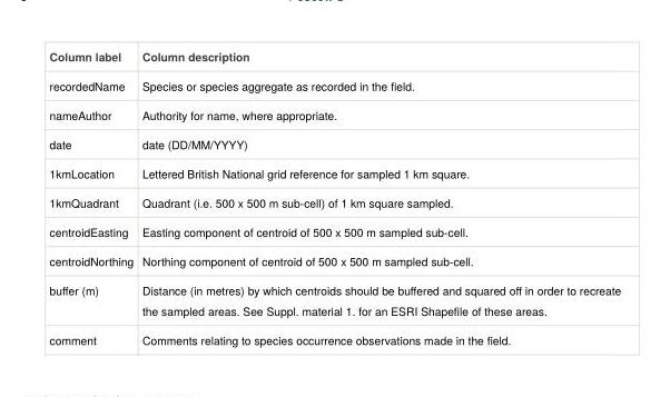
<table><thead><tr><td>Column label</td><td>Column description</td></tr></thead><tbody><tr><td>recordedName</td><td>Speci e s or species aggregate as recorded in the field.</td></tr><tr><td>nameAuthor</td><td>Authority for name, where appropriate.</td></tr><tr><td>date</td><td>date (DD/MM/YYYY)</td></tr><tr><td>1kmLocation</td><td>Lettered British National grid reference for sampled 1 km square.</td></tr><tr><td>1kmQuadrant</td><td>Quadrant (i.e. 500 x 500 m sub-cell) of 1 km square sampled.</td></tr><tr><td>centroidEasting</td><td>Easting component of centroid of 500 x 500 m sampled sub-cell.</td></tr><tr><td>centroidNorthing</td><td>Northing component of centroid of 500 x 500 m sampled sub-cell.</td></tr><tr><td>buffer (m)</td><td>Distance (in metres) by which centroids should be buffered and squared off in order to recreate the sampled areas. See Suppl. material 1. for an ESRI Shapefile of these areas.</td></tr><tr><td>comment</td><td>Comments relating to species occurrence observations made in the field.</td></tr></tbody></table>